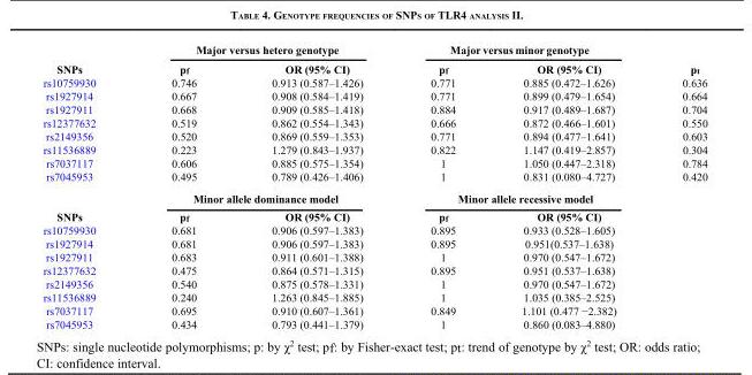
<table><thead><tr><td rowspan="2">SNPs</td><td colspan="2">Major versus hetero genotype</td><td colspan="2">Major versus minor genotype</td><td rowspan="2">p<sub>t</sub></td></tr><tr><td>p<sub>f</sub></td><td>OR (95% CI)</td><td>p<sub>f</sub></td><td>OR (95% CI)</td></tr></thead><tbody><tr><td>rs10759930</td><td>0.746</td><td>0.913 (0.587–1.426)</td><td>0.771</td><td>0.885 (0.472–1.626)</td><td>0.636</td></tr><tr><td>rs1927914</td><td>0.667</td><td>0.908 (0.584–1.419)</td><td>0.771</td><td>0.899 (0.479–1.654)</td><td>0.664</td></tr><tr><td>rs1927911</td><td>0.668</td><td>0.909 (0.585–1.418)</td><td>0.884</td><td>0.917 (0.489–1.687)</td><td>0.704</td></tr><tr><td>rs12377632</td><td>0.519</td><td>0.862 (0.554–1.343)</td><td>0.666</td><td>0.872 (0.466–1.601)</td><td>0.550</td></tr><tr><td>rs2149356</td><td>0.520</td><td>0.869 (0.559–1.353)</td><td>0.771</td><td>0.894 (0.477–1.641)</td><td>0.603</td></tr><tr><td>rs11536889</td><td>0.223</td><td>1.279 (0.843–1.937)</td><td>0.822</td><td>1.147 (0.419–2.857)</td><td>0.304</td></tr><tr><td>rs7037117</td><td>0.606</td><td>0.885 (0.575–1.354)</td><td>1</td><td>1.050 (0.447–2.318)</td><td>0.784</td></tr><tr><td rowspan="2">rs7045953</td><td>0.495</td><td>0.789 (0.426–1.406)</td><td>1</td><td>0.831 (0.080–4.727)</td><td>0.420</td></tr><tr><td colspan="2">Minor allele dominance model</td><td colspan="2">Minor allele recessive model</td><td></td></tr><tr><td>SNPs</td><td>p<sub>f</sub></td><td>OR (95% CI)</td><td>p<sub>f</sub></td><td>OR (95% CI)</td><td></td></tr><tr><td>rs10759930</td><td>0.681</td><td>0.906 (0.597–1.383)</td><td>0.895</td><td>0.933 (0.528–1.605)</td><td></td></tr><tr><td>rs1927914</td><td>0.681</td><td>0.906 (0.597–1.383)</td><td>0.895</td><td>0.951(0.537–1.638)</td><td></td></tr><tr><td>rs1927911</td><td>0.683</td><td>0.911 (0.601–1.388)</td><td>1</td><td>0.970 (0.547–1.672)</td><td></td></tr><tr><td>rs12377632</td><td>0.475</td><td>0.864 (0.571–1.315)</td><td>0.895</td><td>0.951 (0.537–1.638)</td><td></td></tr><tr><td>rs2149356</td><td>0.540</td><td>0.875 (0.578–1.331)</td><td>1</td><td>0.970 (0.547–1.672)</td><td></td></tr><tr><td>rs11536889</td><td>0.240</td><td>1.263 (0.845–1.885)</td><td>1</td><td>1.035 (0.385–2.525)</td><td></td></tr><tr><td>rs7037117</td><td>0.695</td><td>0.910 (0.607–1.361)</td><td>0.849</td><td>1.101 (0.477 −2.382)</td><td></td></tr><tr><td>rs7045953</td><td>0.434</td><td>0.793 (0.441–1.379)</td><td>1</td><td>0.860 (0.083–4.880)</td><td></td></tr></tbody></table>